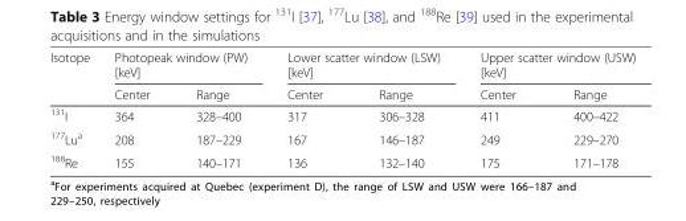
<table><thead><tr><td rowspan="2">Isotope</td><td colspan="2">Photopeak window (PW) [keV]</td><td colspan="2">Lower scatter window (LSW) [keV]</td><td colspan="2">Upper scatter window (USW) [keV]</td></tr><tr><td>Center</td><td>Range</td><td>Center</td><td>Range</td><td>Center</td><td>Range</td></tr></thead><tbody><tr><td><sup>131</sup>I</td><td>364</td><td>328–400</td><td>317</td><td>306–328</td><td>411</td><td>400–422</td></tr><tr><td><sup>177</sup>Lu<sup>a</sup></td><td>208</td><td>187–229</td><td>167</td><td>146–187</td><td>249</td><td>229–270</td></tr><tr><td><sup>188</sup>Re</td><td>155</td><td>140–171</td><td>136</td><td>132–140</td><td>175</td><td>171–178</td></tr></tbody></table>